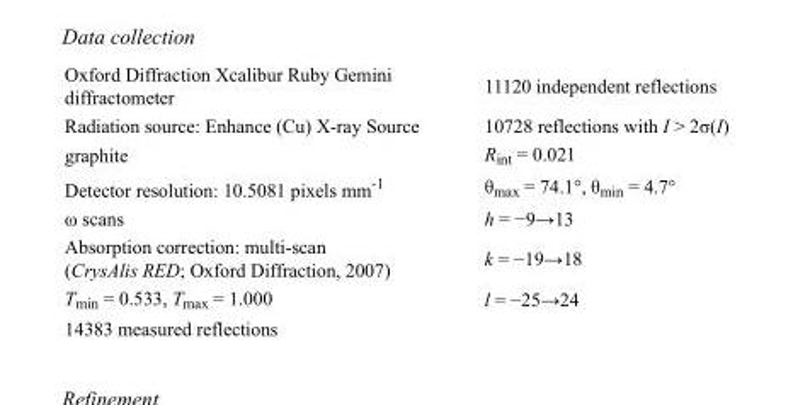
<table><tbody><tr><td>Oxford Diffraction Xcalibur Ruby Gemini diffractometer</td><td>11120 independent reflections</td></tr><tr><td>Radiation source: Enhance (Cu) X-ray Source</td><td>10728 reflections with I &gt; 2σ(I)</td></tr><tr><td>graphite</td><td>R<sub>int</sub> = 0.021</td></tr><tr><td>Detector resolution: 10.5081 pixels mm<sup>-1</sup></td><td>θ<sub>max</sub> = 74.1°, θ<sub>min</sub> = 4.7°</td></tr><tr><td>ω scans</td><td>h = −9→13</td></tr><tr><td>Absorption correction: multi-scan (CrysAlis RED; Oxford Diffraction, 2007)</td><td>k = −19→18</td></tr><tr><td>T<sub>min</sub> = 0.533, T<sub>max</sub> = 1.000</td><td>l = −25→24</td></tr><tr><td>14383 measured reflections</td><td></td></tr></tbody></table>